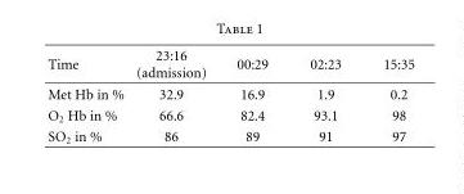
<table><thead><tr><td>Time</td><td>23:16 (admission)</td><td>00:29</td><td>02:23</td><td>15:35</td></tr></thead><tbody><tr><td>Met Hb in %</td><td>32.9</td><td>16.9</td><td>1.9</td><td>0.2</td></tr><tr><td>O<sub>2</sub> Hb in %</td><td>66.6</td><td>82.4</td><td>93.1</td><td>98</td></tr><tr><td>SO<sub>2</sub> in %</td><td>86</td><td>89</td><td>91</td><td>97</td></tr></tbody></table>